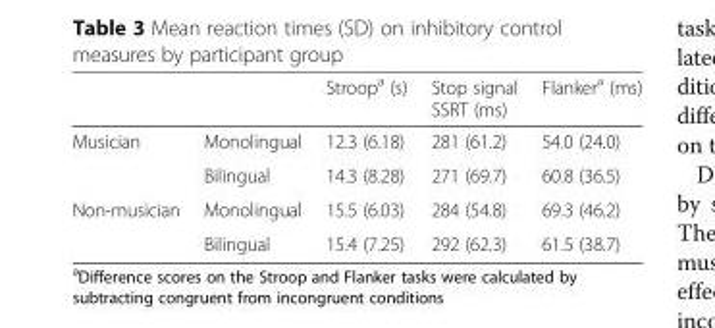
<table><thead><tr><td></td><td></td><td>Stroop<sup>a</sup> (s)</td><td>Stop signal SSRT (ms)</td><td>Flanker<sup>a</sup> (ms)</td></tr></thead><tbody><tr><td rowspan="2">Musician</td><td>Monolingual</td><td>12.3 (6.18)</td><td>281 (61.2)</td><td>54.0 (24.0)</td></tr><tr><td>Bilingual</td><td>14.3 (8.28)</td><td>271 (69.7)</td><td>60.8 (36.5)</td></tr><tr><td rowspan="2">Non-musician</td><td>Monolingual</td><td>15.5 (6.03)</td><td>284 (54.8)</td><td>69.3 (46.2)</td></tr><tr><td>Bilingual</td><td>15.4 (7.25)</td><td>292 (62.3)</td><td>61.5 (38.7)</td></tr></tbody></table>